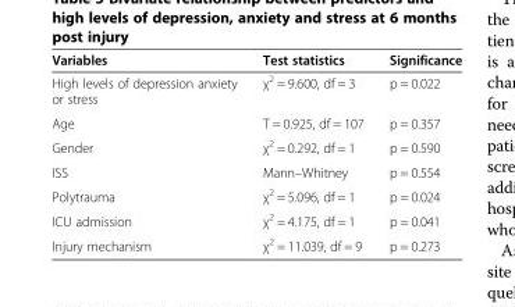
<table><thead><tr><td>Variables</td><td>Test statistics</td><td>Significance</td></tr></thead><tbody><tr><td>High levels of depression anxiety or stress</td><td>χ<sup>2</sup> = 9.600, df = 3</td><td>p = 0.022</td></tr><tr><td>Age</td><td>T = 0.925, df = 107</td><td>p = 0.357</td></tr><tr><td>Gender</td><td>χ<sup>2</sup> = 0.292, df = 1</td><td>p = 0.590</td></tr><tr><td>ISS</td><td>Mann–Whitney</td><td>p = 0.554</td></tr><tr><td>Polytrauma</td><td>χ<sup>2</sup> = 5.096, df = 1</td><td>p = 0.024</td></tr><tr><td>ICU admission</td><td>χ<sup>2</sup> = 4.175, df = 1</td><td>p = 0.041</td></tr><tr><td>Injury mechanism</td><td>χ<sup>2</sup> = 11.039, df = 9</td><td>p = 0.273</td></tr></tbody></table>